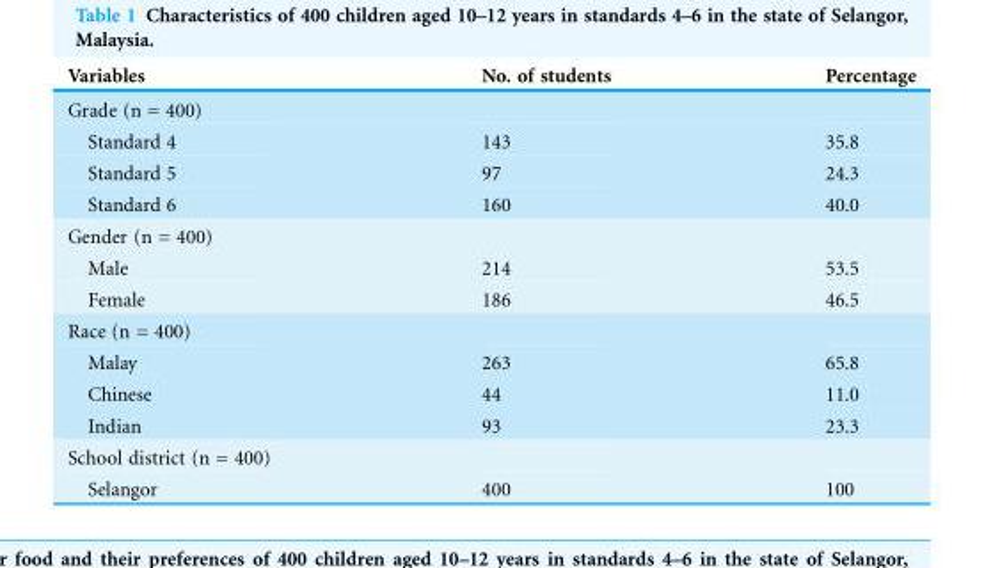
<table><thead><tr><td>Variables</td><td>No. of students</td><td>Percentage</td></tr></thead><tbody><tr><td colspan="3">Grade (n = 400)</td></tr><tr><td>Standard 4</td><td>143</td><td>35.8</td></tr><tr><td>Standard 5</td><td>97</td><td>24.3</td></tr><tr><td>Standard 6</td><td>160</td><td>40.0</td></tr><tr><td colspan="3">Gender (n = 400)</td></tr><tr><td>Male</td><td>214</td><td>53.5</td></tr><tr><td>Female</td><td>186</td><td>46.5</td></tr><tr><td colspan="3">Race (n = 400)</td></tr><tr><td>Malay</td><td>263</td><td>65.8</td></tr><tr><td>Chinese</td><td>44</td><td>11.0</td></tr><tr><td>Indian</td><td>93</td><td>23.3</td></tr><tr><td colspan="3">School district (n = 400)</td></tr><tr><td>Selangor</td><td>400</td><td>100</td></tr></tbody></table>